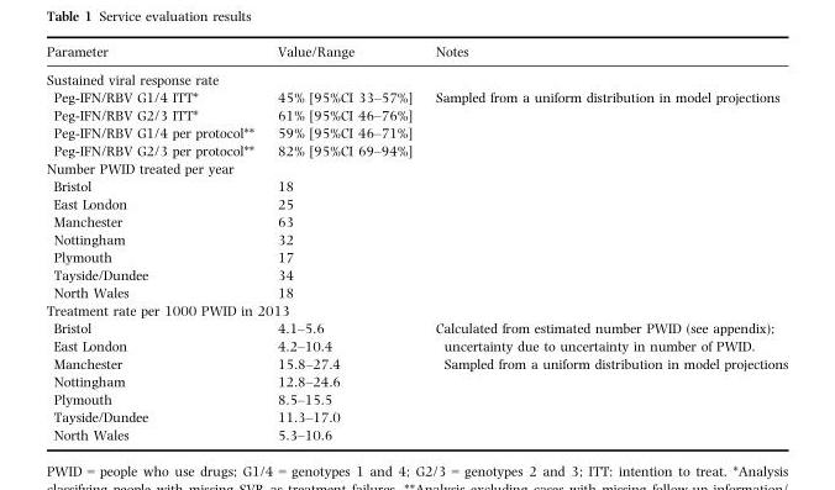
<table><thead><tr><td>Parameter</td><td>Value/Range</td><td>Notes</td></tr></thead><tbody><tr><td colspan="3">Sustained viral response rate</td></tr><tr><td>Peg-IFN/RBV G1/4 ITT*</td><td>45% [95%CI 33–57%]</td><td rowspan="4">Sampled from a uniform distribution in model projections</td></tr><tr><td>Peg-IFN/RBV G2/3 ITT*</td><td>61% [95%CI 46–76%]</td></tr><tr><td>Peg-IFN/RBV G1/4 per protocol**</td><td>59% [95%CI 46–71%]</td></tr><tr><td>Peg-IFN/RBV G2/3 per protocol**</td><td>82% [95%CI 69–94%]</td></tr><tr><td colspan="3">Number PWID treated per year</td></tr><tr><td>Bristol</td><td>18</td><td></td></tr><tr><td>East London</td><td>25</td><td></td></tr><tr><td>Manchester</td><td>63</td><td></td></tr><tr><td>Nottingham</td><td>32</td><td></td></tr><tr><td>Plymouth</td><td>17</td><td></td></tr><tr><td>Tayside/Dundee</td><td>34</td><td></td></tr><tr><td>North Wales</td><td>18</td><td></td></tr><tr><td colspan="3">Treatment rate per 1000 PWID in 2013</td></tr><tr><td>Bristol</td><td>4.1–5.6</td><td rowspan="7">Calculated from estimated number PWID (see appendix); uncertainty due to uncertainty in number of PWID. Sampled from a uniform distribution in model projections</td></tr><tr><td>East London</td><td>4.2–10.4</td></tr><tr><td>Manchester</td><td>15.8–27.4</td></tr><tr><td>Nottingham</td><td>12.8–24.6</td></tr><tr><td>Plymouth</td><td>8.5–15.5</td></tr><tr><td>Tayside/Dundee</td><td>11.3–17.0</td></tr><tr><td>North Wales</td><td>5.3–10.6</td></tr></tbody></table>